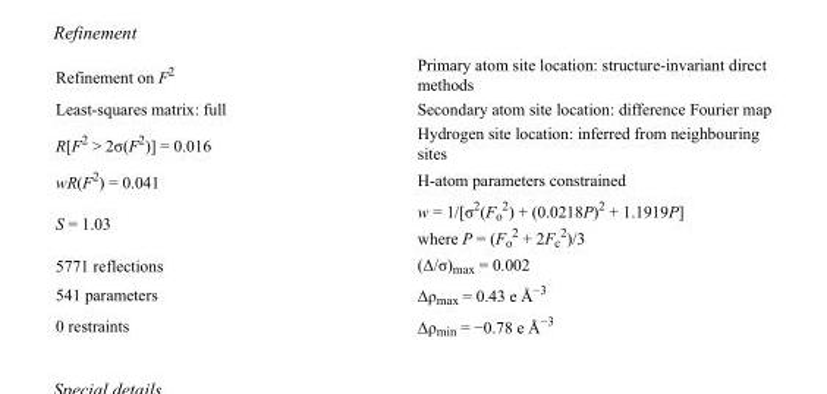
<table><tbody><tr><td>Refinement on F<sup>2</sup></td><td>Primary atom site location: structure-invariant direct methods</td></tr><tr><td>Least-squares matrix: full</td><td>Secondary atom site location: difference Fourier map</td></tr><tr><td>R[F<sup>2</sup> &gt; 2σ(F<sup>2</sup>)] = 0.016</td><td>Hydrogen site location: inferred from neighbouring sites</td></tr><tr><td>wR(F<sup>2</sup>) = 0.041</td><td>H-atom parameters constrained</td></tr><tr><td>S = 1.03</td><td>w = 1/[σ<sup>2</sup>(F<sub>o</sub> <sup>2</sup>) + (0.0218P)<sup>2</sup> + 1.1919P] where P = (F<sub>o</sub> <sup>2</sup> + 2F<sub>c</sub> <sup>2</sup>)/3</td></tr><tr><td>5771 reflections</td><td>(Δ/σ)<sub>max</sub> = 0.002</td></tr><tr><td>541 parameters</td><td>Δρ<sub>max</sub> = 0.43 e Å<sup>−3</sup></td></tr><tr><td>0 restraints</td><td>Δρ<sub>min</sub> = −0.78 e Å<sup>−3</sup></td></tr></tbody></table>